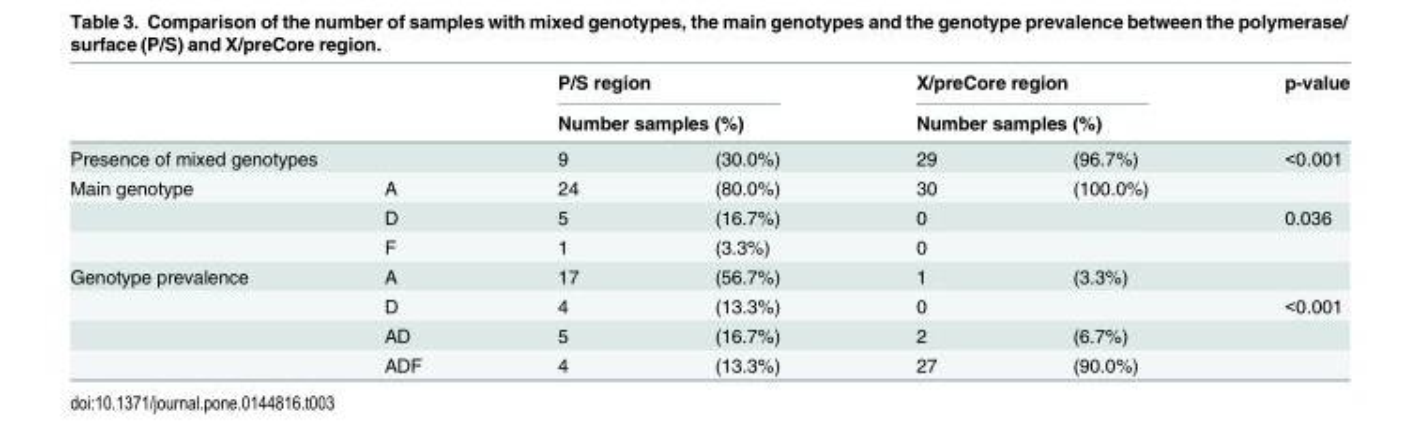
<table><thead><tr><td rowspan="2"></td><td rowspan="2"></td><td rowspan="2" colspan="2">P/S region Number samples (%)</td><td rowspan="2" colspan="2">X/preCore region Number samples (%)</td><td rowspan="3">p-value &lt;0.001</td></tr><tr></tr><tr><td colspan="2">Presence of mixed genotypes</td><td>9</td><td>(30.0%)</td><td>29</td><td>(96.7%)</td></tr></thead><tbody><tr><td rowspan="3">Main genotype</td><td>A</td><td>24</td><td>(80.0%)</td><td>30</td><td>(100.0%)</td><td></td></tr><tr><td>D</td><td>5</td><td>(16.7%)</td><td>0</td><td></td><td>0.036</td></tr><tr><td>F</td><td>1</td><td>(3.3%)</td><td>0</td><td></td><td></td></tr><tr><td rowspan="4">Genotype prevalence</td><td>A</td><td>17</td><td>(56.7%)</td><td>1</td><td>(3.3%)</td><td></td></tr><tr><td>D</td><td>4</td><td>(13.3%)</td><td>0</td><td></td><td>&lt;0.001</td></tr><tr><td>AD</td><td>5</td><td>(16.7%)</td><td>2</td><td>(6.7%)</td><td></td></tr><tr><td>ADF</td><td>4</td><td>(13.3%)</td><td>27</td><td>(90.0%)</td><td></td></tr></tbody></table>